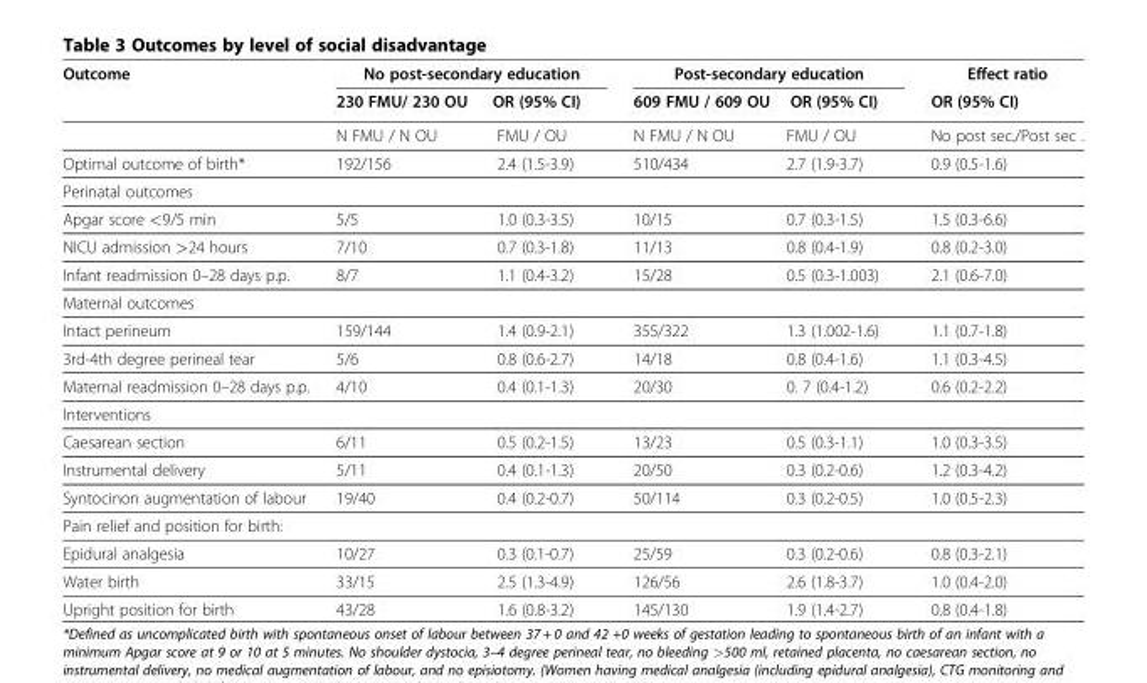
<table><thead><tr><td rowspan="3">Outcome</td><td rowspan="2" colspan="2">No post-secondary education 230 FMU/ 230 OU OR (95% CI)</td><td rowspan="2" colspan="2">Post-secondary education 609 FMU / 609 OU OR (95% CI)</td><td rowspan="3">Effect ratio OR (95% CI) No post sec./Post sec .</td></tr><tr></tr><tr><td>N FMU / N OU</td><td>FMU / OU</td><td>N FMU / N OU</td><td>FMU / OU</td></tr></thead><tbody><tr><td>Optimal outcome of birth*</td><td>192/156</td><td>2.4 (1.5-3.9)</td><td>510/434</td><td>2.7 (1.9-3.7)</td><td>0.9 (0.5-1.6)</td></tr><tr><td colspan="6">Perinatal outcomes</td></tr><tr><td>Apgar score &lt;9/5 min</td><td>5/5</td><td>1.0 (0.3-3.5)</td><td>10/15</td><td>0.7 (0.3-1.5)</td><td>1.5 (0.3-6.6)</td></tr><tr><td>NICU admission &gt;24 hours</td><td>7/10</td><td>0.7 (0.3-1.8)</td><td>11/13</td><td>0.8 (0.4-1.9)</td><td>0.8 (0.2-3.0)</td></tr><tr><td>Infant readmission 0–28 days p.p.</td><td>8/7</td><td>1.1 (0.4-3.2)</td><td>15/28</td><td>0.5 (0.3-1.003)</td><td>2.1 (0.6-7.0)</td></tr><tr><td colspan="6">Maternal outcomes</td></tr><tr><td>Intact perineum</td><td>159/144</td><td>1.4 (0.9-2.1)</td><td>355/322</td><td>1.3 (1.002-1.6)</td><td>1.1 (0.7-1.8)</td></tr><tr><td>3rd-4th degree perineal tear</td><td>5/6</td><td>0.8 (0.6-2.7)</td><td>14/18</td><td>0.8 (0.4-1.6)</td><td>1.1 (0.3-4.5)</td></tr><tr><td>Maternal readmission 0–28 days p.p.</td><td>4/10</td><td>0.4 (0.1-1.3)</td><td>20/30</td><td>0. 7 (0.4-1.2)</td><td>0.6 (0.2-2.2)</td></tr><tr><td colspan="6">Interventions</td></tr><tr><td>Caesarean section</td><td>6/11</td><td>0.5 (0.2-1.5)</td><td>13/23</td><td>0.5 (0.3-1.1)</td><td>1.0 (0.3-3.5)</td></tr><tr><td>Instrumental delivery</td><td>5/11</td><td>0.4 (0.1-1.3)</td><td>20/50</td><td>0.3 (0.2-0.6)</td><td>1.2 (0.3-4.2)</td></tr><tr><td>Syntocinon augmentation of labour</td><td>19/40</td><td>0.4 (0.2-0.7)</td><td>50/114</td><td>0.3 (0.2-0.5)</td><td>1.0 (0.5-2.3)</td></tr><tr><td colspan="6">Pain relief and position for birth:</td></tr><tr><td>Epidural analgesia</td><td>10/27</td><td>0.3 (0.1-0.7)</td><td>25/59</td><td>0.3 (0.2-0.6)</td><td>0.8 (0.3-2.1)</td></tr><tr><td>Water birth</td><td>33/15</td><td>2.5 (1.3-4.9)</td><td>126/56</td><td>2.6 (1.8-3.7)</td><td>1.0 (0.4-2.0)</td></tr><tr><td>Upright position for birth</td><td>43/28</td><td>1.6 (0.8-3.2)</td><td>145/130</td><td>1.9 (1.4-2.7)</td><td>0.8 (0.4-1.8)</td></tr></tbody></table>